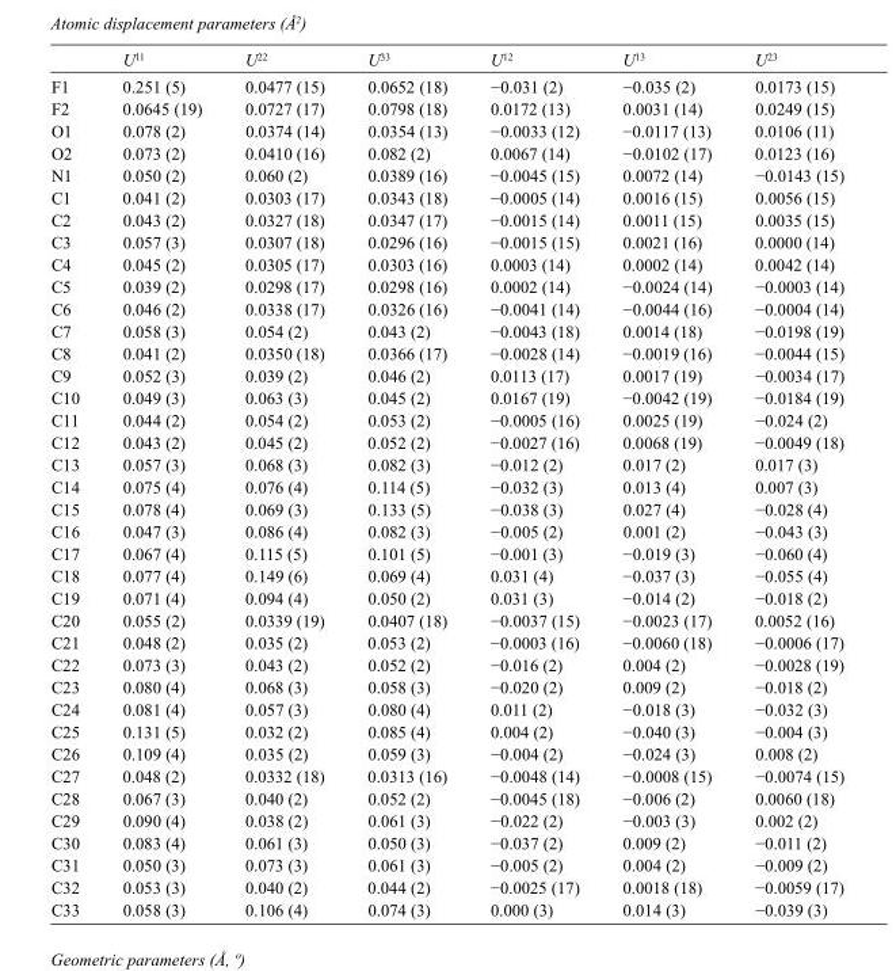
<table><thead><tr><td></td><td>U<sup>11</sup></td><td>U<sup>22</sup></td><td>U<sup>33</sup></td><td>U<sup>12</sup></td><td>U<sup>13</sup></td><td>U<sup>23</sup></td></tr></thead><tbody><tr><td>F1</td><td>0.251 (5)</td><td>0.0477 (15)</td><td>0.0652 (18)</td><td>−0.031 (2)</td><td>−0.035 (2)</td><td>0.0173 (15)</td></tr><tr><td>F2</td><td>0.0645 (19)</td><td>0.0727 (17)</td><td>0.0798 (18)</td><td>0.0172 (13)</td><td>0.0031 (14)</td><td>0.0249 (15)</td></tr><tr><td>O1</td><td>0.078 (2)</td><td>0.0374 (14)</td><td>0.0354 (13)</td><td>−0.0033 (12)</td><td>−0.0117 (13)</td><td>0.0106 (11)</td></tr><tr><td>O2</td><td>0.073 (2)</td><td>0.0410 (16)</td><td>0.082 (2)</td><td>0.0067 (14)</td><td>−0.0102 (17)</td><td>0.0123 (16)</td></tr><tr><td>N1</td><td>0.050 (2)</td><td>0.060 (2)</td><td>0.0389 (16)</td><td>−0.0045 (15)</td><td>0.0072 (14)</td><td>−0.0143 (15)</td></tr><tr><td>C1</td><td>0.041 (2)</td><td>0.0303 (17)</td><td>0.0343 (18)</td><td>−0.0005 (14)</td><td>0.0016 (15)</td><td>0.0056 (15)</td></tr><tr><td>C2</td><td>0.043 (2)</td><td>0.0327 (18)</td><td>0.0347 (17)</td><td>−0.0015 (14)</td><td>0.0011 (15)</td><td>0.0035 (15)</td></tr><tr><td>C3</td><td>0.057 (3)</td><td>0.0307 (18)</td><td>0.0296 (16)</td><td>−0.0015 (15)</td><td>0.0021 (16)</td><td>0.0000 (14)</td></tr><tr><td>C4</td><td>0.045 (2)</td><td>0.0305 (17)</td><td>0.0303 (16)</td><td>0.0003 (14)</td><td>0.0002 (14)</td><td>0.0042 (14)</td></tr><tr><td>C5</td><td>0.039 (2)</td><td>0.0298 (17)</td><td>0.0298 (16)</td><td>0.0002 (14)</td><td>−0.0024 (14)</td><td>−0.0003 (14)</td></tr><tr><td>C6</td><td>0.046 (2)</td><td>0.0338 (17)</td><td>0.0326 (16)</td><td>−0.0041 (14)</td><td>−0.0044 (16)</td><td>−0.0004 (14)</td></tr><tr><td>C7</td><td>0.058 (3)</td><td>0.054 (2)</td><td>0.043 (2)</td><td>−0.0043 (18)</td><td>0.0014 (18)</td><td>−0.0198 (19)</td></tr><tr><td>C8</td><td>0.041 (2)</td><td>0.0350 (18)</td><td>0.0366 (17)</td><td>−0.0028 (14)</td><td>−0.0019 (16)</td><td>−0.0044 (15)</td></tr><tr><td>C9</td><td>0.052 (3)</td><td>0.039 (2)</td><td>0.046 (2)</td><td>0.0113 (17)</td><td>0.0017 (19)</td><td>−0.0034 (17)</td></tr><tr><td>C10</td><td>0.049 (3)</td><td>0.063 (3)</td><td>0.045 (2)</td><td>0.0167 (19)</td><td>−0.0042 (19)</td><td>−0.0184 (19)</td></tr><tr><td>C11</td><td>0.044 (2)</td><td>0.054 (2)</td><td>0.053 (2)</td><td>−0.0005 (16)</td><td>0.0025 (19)</td><td>−0.024 (2)</td></tr><tr><td>C12</td><td>0.043 (2)</td><td>0.045 (2)</td><td>0.052 (2)</td><td>−0.0027 (16)</td><td>0.0068 (19)</td><td>−0.0049 (18)</td></tr><tr><td>C13</td><td>0.057 (3)</td><td>0.068 (3)</td><td>0.082 (3)</td><td>−0.012 (2)</td><td>0.017 (2)</td><td>0.017 (3)</td></tr><tr><td>C14</td><td>0.075 (4)</td><td>0.076 (4)</td><td>0.114 (5)</td><td>−0.032 (3)</td><td>0.013 (4)</td><td>0.007 (3)</td></tr><tr><td>C15</td><td>0.078 (4)</td><td>0.069 (3)</td><td>0.133 (5)</td><td>−0.038 (3)</td><td>0.027 (4)</td><td>−0.028 (4)</td></tr><tr><td>C16</td><td>0.047 (3)</td><td>0.086 (4)</td><td>0.082 (3)</td><td>−0.005 (2)</td><td>0.001 (2)</td><td>−0.043 (3)</td></tr><tr><td>C17</td><td>0.067 (4)</td><td>0.115 (5)</td><td>0.101 (5)</td><td>−0.001 (3)</td><td>−0.019 (3)</td><td>−0.060 (4)</td></tr><tr><td>C18</td><td>0.077 (4)</td><td>0.149 (6)</td><td>0.069 (4)</td><td>0.031 (4)</td><td>−0.037 (3)</td><td>−0.055 (4)</td></tr><tr><td>C19</td><td>0.071 (4)</td><td>0.094 (4)</td><td>0.050 (2)</td><td>0.031 (3)</td><td>−0.014 (2)</td><td>−0.018 (2)</td></tr><tr><td>C20</td><td>0.055 (2)</td><td>0.0339 (19)</td><td>0.0407 (18)</td><td>−0.0037 (15)</td><td>−0.0023 (17)</td><td>0.0052 (16)</td></tr><tr><td>C21</td><td>0.048 (2)</td><td>0.035 (2)</td><td>0.053 (2)</td><td>−0.0003 (16)</td><td>−0.0060 (18)</td><td>−0.0006 (17)</td></tr><tr><td>C22</td><td>0.073 (3)</td><td>0.043 (2)</td><td>0.052 (2)</td><td>−0.016 (2)</td><td>0.004 (2)</td><td>−0.0028 (19)</td></tr><tr><td>C23</td><td>0.080 (4)</td><td>0.068 (3)</td><td>0.058 (3)</td><td>−0.020 (2)</td><td>0.009 (2)</td><td>−0.018 (2)</td></tr><tr><td>C24</td><td>0.081 (4)</td><td>0.057 (3)</td><td>0.080 (4)</td><td>0.011 (2)</td><td>−0.018 (3)</td><td>−0.032 (3)</td></tr><tr><td>C25</td><td>0.131 (5)</td><td>0.032 (2)</td><td>0.085 (4)</td><td>0.004 (2)</td><td>−0.040 (3)</td><td>−0.004 (3)</td></tr><tr><td>C26</td><td>0.109 (4)</td><td>0.035 (2)</td><td>0.059 (3)</td><td>−0.004 (2)</td><td>−0.024 (3)</td><td>0.008 (2)</td></tr><tr><td>C27</td><td>0.048 (2)</td><td>0.0332 (18)</td><td>0.0313 (16)</td><td>−0.0048 (14)</td><td>−0.0008 (15)</td><td>−0.0074 (15)</td></tr><tr><td>C28</td><td>0.067 (3)</td><td>0.040 (2)</td><td>0.052 (2)</td><td>−0.0045 (18)</td><td>−0.006 (2)</td><td>0.0060 (18)</td></tr><tr><td>C29</td><td>0.090 (4)</td><td>0.038 (2)</td><td>0.061 (3)</td><td>−0.022 (2)</td><td>−0.003 (3)</td><td>0.002 (2)</td></tr><tr><td>C30</td><td>0.083 (4)</td><td>0.061 (3)</td><td>0.050 (3)</td><td>−0.037 (2)</td><td>0.009 (2)</td><td>−0.011 (2)</td></tr><tr><td>C31</td><td>0.050 (3)</td><td>0.073 (3)</td><td>0.061 (3)</td><td>−0.005 (2)</td><td>0.004 (2)</td><td>−0.009 (2)</td></tr><tr><td>C32</td><td>0.053 (3)</td><td>0.040 (2)</td><td>0.044 (2)</td><td>−0.0025 (17)</td><td>0.0018 (18)</td><td>−0.0059 (17)</td></tr><tr><td>C33</td><td>0.058 (3)</td><td>0.106 (4)</td><td>0.074 (3)</td><td>0.000 (3)</td><td>0.014 (3)</td><td>−0.039 (3)</td></tr></tbody></table>